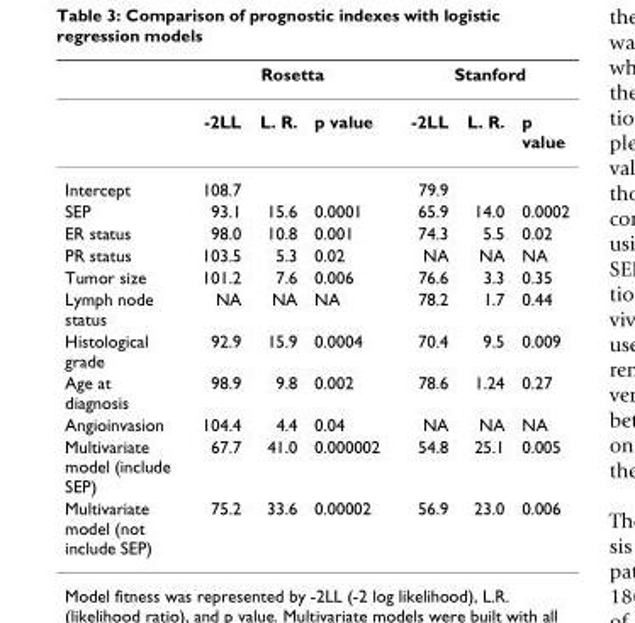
<table><thead><tr><td rowspan="2"></td><td colspan="3">Rosetta</td><td colspan="3">Stanford</td></tr><tr><td>-2LL</td><td>L. R.</td><td>p value</td><td>-2LL</td><td>L. R.</td><td>p value</td></tr></thead><tbody><tr><td>Intercept</td><td>108.7</td><td></td><td></td><td>79.9</td><td></td><td></td></tr><tr><td>SEP</td><td>93.1</td><td>15.6</td><td>0.0001</td><td>65.9</td><td>14.0</td><td>0.0002</td></tr><tr><td>ER status</td><td>98.0</td><td>10.8</td><td>0.001</td><td>74.3</td><td>5.5</td><td>0.02</td></tr><tr><td>PR status</td><td>103.5</td><td>5.3</td><td>0.02</td><td>NA</td><td>NA</td><td>NA</td></tr><tr><td>Tumor size</td><td>101.2</td><td>7.6</td><td>0.006</td><td>76.6</td><td>3.3</td><td>0.35</td></tr><tr><td>Lymph node status</td><td>NA</td><td>NA</td><td>NA</td><td>78.2</td><td>1.7</td><td>0.44</td></tr><tr><td>Histological grade</td><td>92.9</td><td>15.9</td><td>0.0004</td><td>70.4</td><td>9.5</td><td>0.009</td></tr><tr><td>Age at diagnosis</td><td>98.9</td><td>9.8</td><td>0.002</td><td>78.6</td><td>1.24</td><td>0.27</td></tr><tr><td>Angioinvasion</td><td>104.4</td><td>4.4</td><td>0.04</td><td>NA</td><td>NA</td><td>NA</td></tr><tr><td>Multivariate model (include SEP)</td><td>67.7</td><td>41.0</td><td>0.000002</td><td>54.8</td><td>25.1</td><td>0.005</td></tr><tr><td>Multivariate model (not include SEP)</td><td>75.2</td><td>33.6</td><td>0.00002</td><td>56.9</td><td>23.0</td><td>0.006</td></tr></tbody></table>